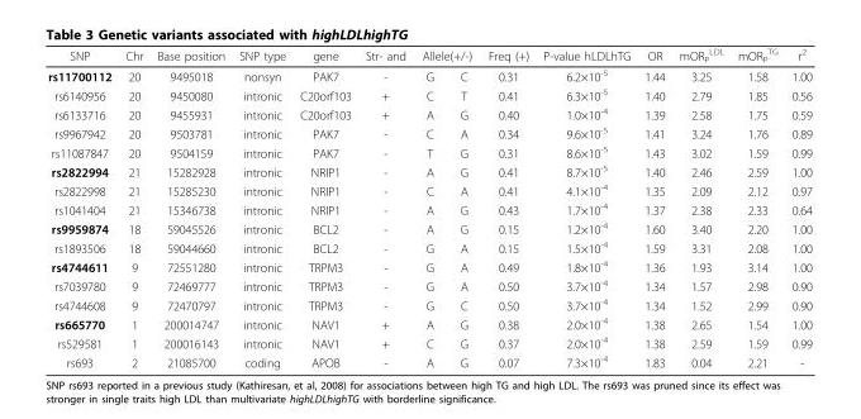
<table><thead><tr><td rowspan="2">SNP rs11700112</td><td rowspan="2">Chr 20</td><td rowspan="2">Base position 9495018</td><td rowspan="2">SNP type nonsyn</td><td rowspan="2">gene PAK7</td><td rowspan="2">Str- and -</td><td colspan="2">Allele(+/-)</td><td rowspan="2">Freq (+) 0.31</td><td rowspan="2">P-value hLDLhTG 6.2×10<sup>-5</sup></td><td rowspan="2">OR 1.44</td><td rowspan="2">mOR<sub>P</sub> <sup>LDL</sup> 3.25</td><td rowspan="2">mOR<sub>P</sub> <sup>TG</sup> 1.58</td><td rowspan="2">r<sup>2</sup> 1.00</td></tr><tr><td>G</td><td>C</td></tr></thead><tbody><tr><td>rs6140956</td><td>20</td><td>9450080</td><td>intronic</td><td>C20orf103</td><td>+</td><td>C</td><td>T</td><td>0.41</td><td>6.3×10<sup>-5</sup></td><td>1.40</td><td>2.79</td><td>1.85</td><td>0.56</td></tr><tr><td>rs6133716</td><td>20</td><td>9455931</td><td>intronic</td><td>C20orf103</td><td>+</td><td>A</td><td>G</td><td>0.40</td><td>1.0×10<sup>-4</sup></td><td>1.39</td><td>2.58</td><td>1.75</td><td>0.59</td></tr><tr><td>rs9967942</td><td>20</td><td>9503781</td><td>intronic</td><td>PAK7</td><td>-</td><td>C</td><td>A</td><td>0.34</td><td>9.6×10<sup>-5</sup></td><td>1.41</td><td>3.24</td><td>1.76</td><td>0.89</td></tr><tr><td>rs11087847</td><td>20</td><td>9504159</td><td>intronic</td><td>PAK7</td><td>-</td><td>T</td><td>G</td><td>0.31</td><td>8.6×10<sup>-5</sup></td><td>1.43</td><td>3.02</td><td>1.59</td><td>0.99</td></tr><tr><td>rs2822994</td><td>21</td><td>15282928</td><td>intronic</td><td>NRIP1</td><td>-</td><td>A</td><td>G</td><td>0.41</td><td>8.7×10<sup>-5</sup></td><td>1.40</td><td>2.46</td><td>2.59</td><td>1.00</td></tr><tr><td>rs2822998</td><td>21</td><td>15285230</td><td>intronic</td><td>NRIP1</td><td>-</td><td>C</td><td>A</td><td>0.41</td><td>4.1×10<sup>-4</sup></td><td>1.35</td><td>2.09</td><td>2.12</td><td>0.97</td></tr><tr><td>rs1041404</td><td>21</td><td>15346738</td><td>intronic</td><td>NRIP1</td><td>-</td><td>A</td><td>G</td><td>0.43</td><td>1.7×10<sup>-4</sup></td><td>1.37</td><td>2.38</td><td>2.33</td><td>0.64</td></tr><tr><td>rs9959874</td><td>18</td><td>59045526</td><td>intronic</td><td>BCL2</td><td>-</td><td>A</td><td>G</td><td>0.15</td><td>1.2×10<sup>-4</sup></td><td>1.60</td><td>3.40</td><td>2.20</td><td>1.00</td></tr><tr><td>rs1893506</td><td>18</td><td>59044660</td><td>intronic</td><td>BCL2</td><td>-</td><td>G</td><td>A</td><td>0.15</td><td>1.5×10<sup>-4</sup></td><td>1.59</td><td>3.31</td><td>2.08</td><td>1.00</td></tr><tr><td>rs4744611</td><td>9</td><td>72551280</td><td>intronic</td><td>TRPM3</td><td>-</td><td>G</td><td>A</td><td>0.49</td><td>1.8×10<sup>-4</sup></td><td>1.36</td><td>1.93</td><td>3.14</td><td>1.00</td></tr><tr><td>rs7039780</td><td>9</td><td>72469777</td><td>intronic</td><td>TRPM3</td><td>-</td><td>G</td><td>A</td><td>0.50</td><td>3.7×10<sup>-4</sup></td><td>1.34</td><td>1.57</td><td>2.98</td><td>0.90</td></tr><tr><td>rs4744608</td><td>9</td><td>72470797</td><td>intronic</td><td>TRPM3</td><td>-</td><td>G</td><td>C</td><td>0.50</td><td>3.7×10<sup>-4</sup></td><td>1.34</td><td>1.52</td><td>2.99</td><td>0.90</td></tr><tr><td>rs665770</td><td>1</td><td>200014747</td><td>intronic</td><td>NAV1</td><td>+</td><td>A</td><td>G</td><td>0.38</td><td>2.0×10<sup>-4</sup></td><td>1.38</td><td>2.65</td><td>1.54</td><td>1.00</td></tr><tr><td>rs529581</td><td>1</td><td>200016143</td><td>intronic</td><td>NAV1</td><td>+</td><td>C</td><td>G</td><td>0.37</td><td>2.0×10<sup>-4</sup></td><td>1.38</td><td>2.59</td><td>1.59</td><td>0.99</td></tr><tr><td>rs693</td><td>2</td><td>21085700</td><td>coding</td><td>APOB</td><td>-</td><td>A</td><td>G</td><td>0.07</td><td>7.3×10<sup>-4</sup></td><td>1.83</td><td>0.04</td><td>2.21</td><td>-</td></tr></tbody></table>